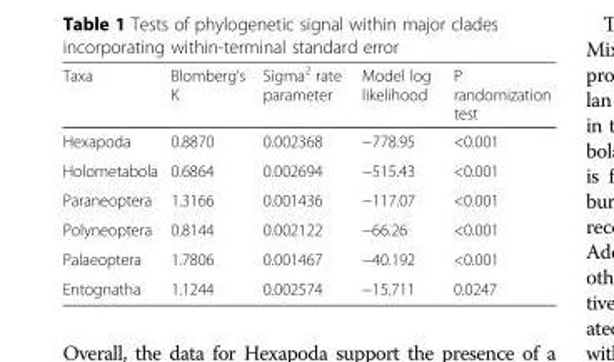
<table><thead><tr><td>Taxa</td><td>Blomberg’s K</td><td>Sigma<sup>2</sup> rate parameter</td><td>Model log likelihood</td><td>P randomization test</td></tr></thead><tbody><tr><td>Hexapoda</td><td>0.8870</td><td>0.002368</td><td>−778.95</td><td>&lt;0.001</td></tr><tr><td>Holometabola</td><td>0.6864</td><td>0.002694</td><td>−515.43</td><td>&lt;0.001</td></tr><tr><td>Paraneoptera</td><td>1.3166</td><td>0.001436</td><td>−117.07</td><td>&lt;0.001</td></tr><tr><td>Polyneoptera</td><td>0.8144</td><td>0.002122</td><td>−66.26</td><td>&lt;0.001</td></tr><tr><td>Palaeoptera</td><td>1.7806</td><td>0.001467</td><td>−40.192</td><td>&lt;0.001</td></tr><tr><td>Entognatha</td><td>1.1244</td><td>0.002574</td><td>−15.711</td><td>0.0247</td></tr></tbody></table>